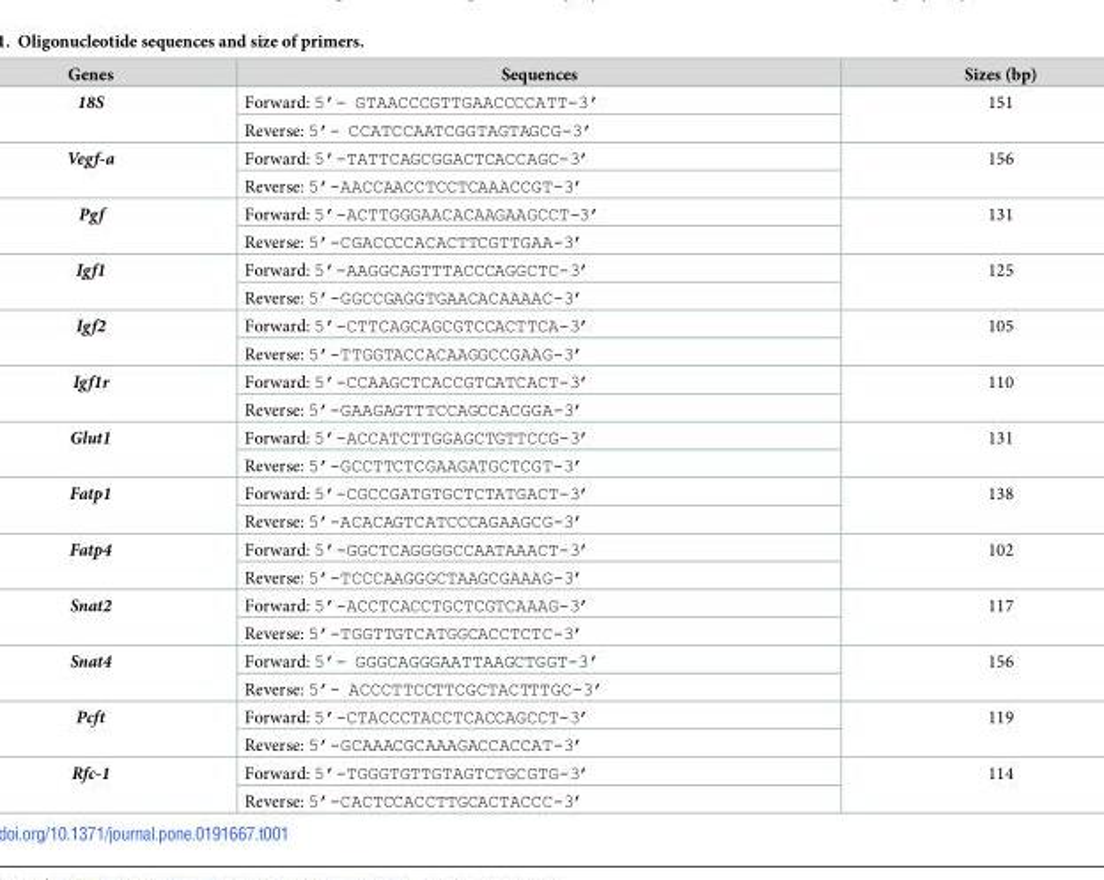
<table><thead><tr><td>Genes</td><td>Sequences</td><td>Sizes (bp)</td></tr></thead><tbody><tr><td rowspan="2">18S</td><td>Forward: 5’- GTAACCCGTTGAACCCCATT-3’</td><td rowspan="2">151</td></tr><tr><td>Reverse: 5’- CCATCCAATCGGTAGTAGCG-3’</td></tr><tr><td rowspan="2">Vegf-a</td><td>Forward: 5’-TATTCAGCGGACTCACCAGC-3’</td><td rowspan="2">156</td></tr><tr><td>Reverse: 5’-AACCAACCTCCTCAAACCGT-3’</td></tr><tr><td rowspan="2">Pgf</td><td>Forward: 5’-ACTTGGGAACACAAGAAGCCT-3’</td><td rowspan="2">131</td></tr><tr><td>Reverse: 5’-CGACCCCACACTTCGTTGAA-3’</td></tr><tr><td rowspan="2">Igf1</td><td>Forward: 5’-AAGGCAGTTTACCCAGGCTC-3’</td><td rowspan="2">125</td></tr><tr><td>Reverse: 5’-GGCCGAGGTGAACACAAAAC-3’</td></tr><tr><td rowspan="2">Igf2</td><td>Forward: 5’-CTTCAGCAGCGTCCACTTCA-3’</td><td rowspan="2">105</td></tr><tr><td>Reverse: 5’-TTGGTACCACAAGGCCGAAG-3’</td></tr><tr><td rowspan="2">Igf1r</td><td>Forward: 5’-CCAAGCTCACCGTCATCACT-3’</td><td rowspan="2">110</td></tr><tr><td>Reverse: 5’-GAAGAGTTTCCAGCCACGGA-3’</td></tr><tr><td rowspan="2">Glut1</td><td>Forward: 5’-ACCATCTTGGAGCTGTTCCG-3’</td><td rowspan="2">131</td></tr><tr><td>Reverse: 5’-GCCTTCTCGAAGATGCTCGT-3’</td></tr><tr><td rowspan="2">Fatp1</td><td>Forward: 5’-CGCCGATGTGCTCTATGACT-3’</td><td rowspan="2">138</td></tr><tr><td>Reverse: 5’-ACACAGTCATCCCAGAAGCG-3’</td></tr><tr><td rowspan="2">Fatp4</td><td>Forward: 5’-GGCTCAGGGGCCAATAAACT-3’</td><td rowspan="2">102</td></tr><tr><td>Reverse: 5’-TCCCAAGGGCTAAGCGAAAG-3’</td></tr><tr><td rowspan="2">Snat2</td><td>Forward: 5’-ACCTCACCTGCTCGTCAAAG-3’</td><td rowspan="2">117</td></tr><tr><td>Reverse: 5’-TGGTTGTCATGGCACCTCTC-3’</td></tr><tr><td rowspan="2">Snat4</td><td>Forward: 5’- GGGCAGGGAATTAAGCTGGT-3’</td><td rowspan="2">156</td></tr><tr><td>Reverse: 5’- ACCCTTCCTTCGCTACTTTGC-3’</td></tr><tr><td rowspan="2">Pcft</td><td>Forward: 5’-CTACCCTACCTCACCAGCCT-3’</td><td rowspan="2">119</td></tr><tr><td>Reverse: 5’-GCAAACGCAAAGACCACCAT-3’</td></tr><tr><td rowspan="2">Rfc-1</td><td>Forward: 5’-TGGGTGTTGTAGTCTGCGTG-3’</td><td rowspan="2">114</td></tr><tr><td>Reverse: 5’-CACTCCACCTTGCACTACCC-3’</td></tr></tbody></table>